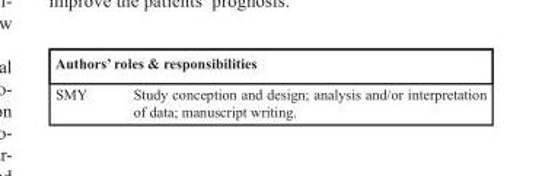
<table><thead><tr><td colspan="2">Authors’ roles &amp; responsibilities</td></tr><tr><td>SMY</td><td>Study conception and design; analysis and/or interpretation of data; manuscript writing.</td></tr></thead><tbody></tbody></table>